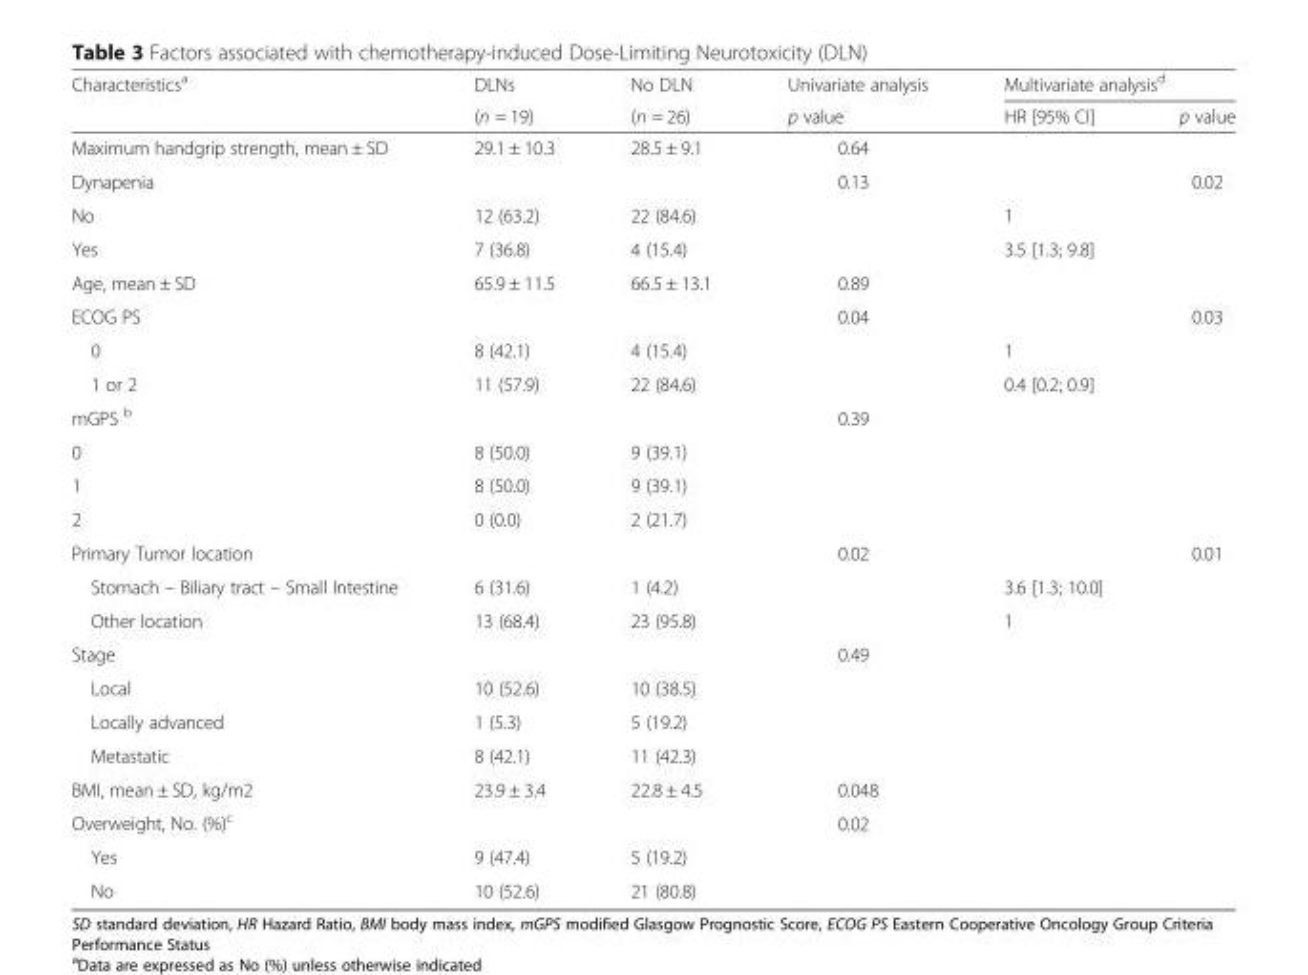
<table><thead><tr><td rowspan="2">Characteristics<sup>a</sup></td><td rowspan="2">DLNs (n = 19)</td><td rowspan="2">No DLN (n = 26)</td><td rowspan="2">Univariate analysis p value</td><td colspan="2">Multivariate analysis<sup>d</sup></td></tr><tr><td>HR [95% CI]</td><td>p value</td></tr></thead><tbody><tr><td>Maximum handgrip strength, mean ± SD</td><td>29.1 ± 10.3</td><td>28.5 ± 9.1</td><td>0.64</td><td></td><td></td></tr><tr><td>Dynapenia</td><td></td><td></td><td>0.13</td><td></td><td>0.02</td></tr><tr><td>No</td><td>12 (63.2)</td><td>22 (84.6)</td><td></td><td>1</td><td></td></tr><tr><td>Yes</td><td>7 (36.8)</td><td>4 (15.4)</td><td></td><td>3.5 [1.3; 9.8]</td><td></td></tr><tr><td>Age, mean ± SD</td><td>65.9 ± 11.5</td><td>66.5 ± 13.1</td><td>0.89</td><td></td><td></td></tr><tr><td>ECOG PS</td><td></td><td></td><td>0.04</td><td></td><td>0.03</td></tr><tr><td>0</td><td>8 (42.1)</td><td>4 (15.4)</td><td></td><td>1</td><td></td></tr><tr><td>1 or 2</td><td>11 (57.9)</td><td>22 (84.6)</td><td></td><td>0.4 [0.2; 0.9]</td><td></td></tr><tr><td>mGPS <sup>b</sup></td><td></td><td></td><td>0.39</td><td></td><td></td></tr><tr><td>0</td><td>8 (50.0)</td><td>9 (39.1)</td><td></td><td></td><td></td></tr><tr><td>1</td><td>8 (50.0)</td><td>9 (39.1)</td><td></td><td></td><td></td></tr><tr><td>2</td><td>0 (0.0)</td><td>2 (21.7)</td><td></td><td></td><td></td></tr><tr><td>Primary Tumor location</td><td></td><td></td><td>0.02</td><td></td><td>0.01</td></tr><tr><td>Stomach – Biliary tract – Small Intestine</td><td>6 (31.6)</td><td>1 (4.2)</td><td></td><td>3.6 [1.3; 10.0]</td><td></td></tr><tr><td>Other location</td><td>13 (68.4)</td><td>23 (95.8)</td><td></td><td>1</td><td></td></tr><tr><td>Stage</td><td></td><td></td><td>0.49</td><td></td><td></td></tr><tr><td>Local</td><td>10 (52.6)</td><td>10 (38.5)</td><td></td><td></td><td></td></tr><tr><td>Locally advanced</td><td>1 (5.3)</td><td>5 (19.2)</td><td></td><td></td><td></td></tr><tr><td>Metastatic</td><td>8 (42.1)</td><td>11 (42.3)</td><td></td><td></td><td></td></tr><tr><td>BMI, mean ± SD, kg/m2</td><td>23.9 ± 3.4</td><td>22.8 ± 4.5</td><td>0.048</td><td></td><td></td></tr><tr><td>Overweight, No. (%)<sup>c</sup></td><td></td><td></td><td>0.02</td><td></td><td></td></tr><tr><td>Yes</td><td>9 (47.4)</td><td>5 (19.2)</td><td></td><td></td><td></td></tr><tr><td>No</td><td>10 (52.6)</td><td>21 (80.8)</td><td></td><td></td><td></td></tr></tbody></table>